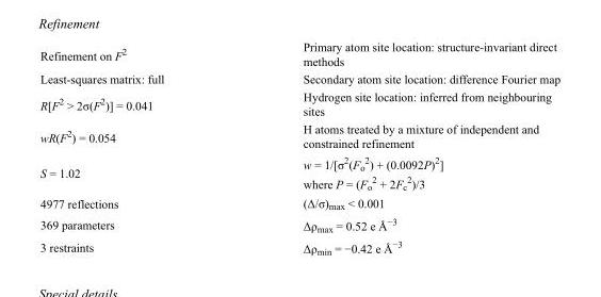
<table><tbody><tr><td>Refinement on F<sup>2</sup></td><td>Primary atom site location: structure-invariant direct methods</td></tr><tr><td>Least-squares matrix: full</td><td>Secondary atom site location: difference Fourier map</td></tr><tr><td>R[F<sup>2</sup> &gt; 2σ(F<sup>2</sup>)] = 0.041</td><td>Hydrogen site location: inferred from neighbouring sites</td></tr><tr><td>wR(F<sup>2</sup>) = 0.054</td><td>H atoms treated by a mixture of independent and constrained refinement</td></tr><tr><td>S = 1.02</td><td>w = 1/[σ<sup>2</sup>(F<sub>o</sub> <sup>2</sup>) + (0.0092P)<sup>2</sup>] where P = (F<sub>o</sub> <sup>2</sup> + 2F<sub>c</sub> <sup>2</sup>)/3</td></tr><tr><td>4977 reflections</td><td>(Δ/σ)<sub>max</sub> &lt; 0.001</td></tr><tr><td>369 parameters</td><td>Δρ<sub>max</sub> = 0.52 e Å<sup>−3</sup></td></tr><tr><td>3 restraints</td><td>Δρ<sub>min</sub> = −0.42 e Å<sup>−3</sup></td></tr></tbody></table>